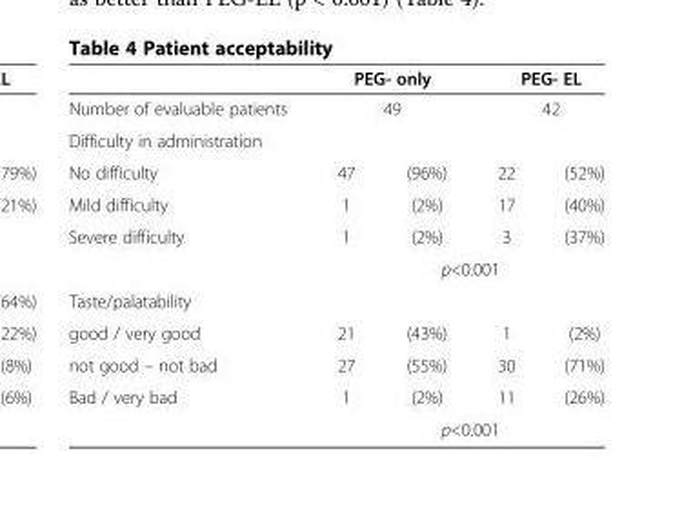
<table><thead><tr><td rowspan="4">Number of evaluable patients Difficulty in administration No difficulty</td><td rowspan="3" colspan="2">PEG- only 49</td><td rowspan="3" colspan="2">PEG- EL 42</td></tr><tr></tr><tr></tr><tr><td>47</td><td>(96%)</td><td>22</td><td>(52%)</td></tr></thead><tbody><tr><td>Mild difficulty</td><td>1</td><td>(2%)</td><td>17</td><td>(40%)</td></tr><tr><td rowspan="2">Severe difficulty</td><td>1</td><td>(2%)</td><td>3</td><td>(37%)</td></tr><tr><td></td><td colspan="2">p&lt;0.001</td><td></td></tr><tr><td colspan="5">Taste/palatability</td></tr><tr><td>good / very good</td><td>21</td><td>(43%)</td><td>1</td><td>(2%)</td></tr><tr><td>not good – not bad</td><td>27</td><td>(55%)</td><td>30</td><td>(71%)</td></tr><tr><td rowspan="2">Bad / very bad</td><td>1</td><td>(2%)</td><td>11</td><td>(26%)</td></tr><tr><td></td><td colspan="2">p&lt;0.001</td><td></td></tr></tbody></table>